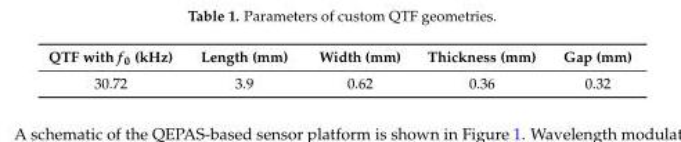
<table><thead><tr><td>QTF with f<sub>0</sub> (kHz)</td><td>Length (mm)</td><td>Width (mm)</td><td>Thickness (mm)</td><td>Gap (mm)</td></tr></thead><tbody><tr><td>30.72</td><td>3.9</td><td>0.62</td><td>0.36</td><td>0.32</td></tr></tbody></table>